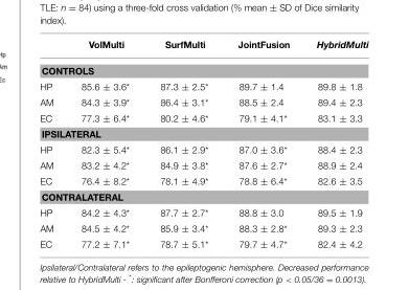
<table><thead><tr><td></td><td>VolMulti</td><td>SurfMulti</td><td>JointFusion</td><td>HybridMulti</td></tr></thead><tbody><tr><td colspan="5">CONTROLS</td></tr><tr><td>HP</td><td>85.6 ± 3.6*</td><td>87.3 ± 2.5*</td><td>89.7 ± 1.4</td><td>89.8 ± 1.8</td></tr><tr><td>AM</td><td>84.3 ± 3.9*</td><td>86.4 ± 3.1*</td><td>88.5 ± 2.4</td><td>89.4 ± 2.3</td></tr><tr><td>EC</td><td>77.3 ± 6.4*</td><td>80.2 ± 4.6*</td><td>79.1 ± 4.1*</td><td>83.1 ± 3.3</td></tr><tr><td colspan="5">IPSILATERAL</td></tr><tr><td>HP</td><td>82.3 ± 5.4*</td><td>86.1 ± 2.9*</td><td>87.0 ± 3.6*</td><td>88.4 ± 2.3</td></tr><tr><td>AM</td><td>83.2 ± 4.2*</td><td>84.9 ± 3.8*</td><td>87.6 ± 2.7*</td><td>88.9 ± 2.4</td></tr><tr><td>EC</td><td>76.4 ± 8.2*</td><td>78.1 ± 4.9*</td><td>78.8 ± 6.4*</td><td>82.6 ± 3.5</td></tr><tr><td colspan="5">CONTRALATERAL</td></tr><tr><td>HP</td><td>84.2 ± 4.3*</td><td>87.7 ± 2.7*</td><td>88.8 ± 3.0</td><td>89.5 ± 1.9</td></tr><tr><td>AM</td><td>84.5 ± 4.2*</td><td>85.9 ± 3.4*</td><td>88.3 ± 2.8*</td><td>89.3 ± 2.3</td></tr><tr><td>EC</td><td>77.2 ± 7.1*</td><td>78.7 ± 5.1*</td><td>79.7 ± 4.7*</td><td>82.4 ± 4.2</td></tr></tbody></table>